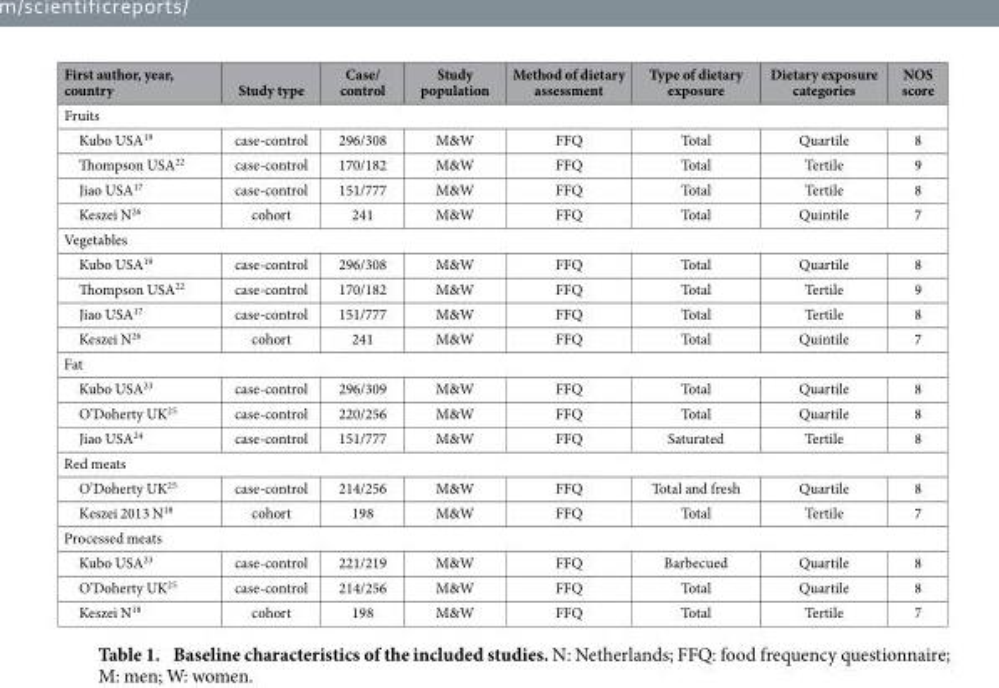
<table><thead><tr><td>First author, year, country</td><td>Study type</td><td>Case/ control</td><td>Study population</td><td>Method of dietary assessment</td><td>Type of dietary exposure</td><td>Dietary exposure categories</td><td>NOS score</td></tr></thead><tbody><tr><td colspan="8">Fruits</td></tr><tr><td>Kubo USA<sup>19</sup></td><td>case-control</td><td>296/308</td><td>M&amp;W</td><td>FFQ</td><td>Total</td><td>Quartile</td><td>8</td></tr><tr><td>Thompson USA<sup>22</sup></td><td>case-control</td><td>170/182</td><td>M&amp;W</td><td>FFQ</td><td>Total</td><td>Tertile</td><td>9</td></tr><tr><td>Jiao USA<sup>17</sup></td><td>case-control</td><td>151/777</td><td>M&amp;W</td><td>FFQ</td><td>Total</td><td>Tertile</td><td>8</td></tr><tr><td>Keszei N<sup>26</sup></td><td>cohort</td><td>241</td><td>M&amp;W</td><td>FFQ</td><td>Total</td><td>Quintile</td><td>7</td></tr><tr><td colspan="8">Vegetables</td></tr><tr><td>Kubo USA<sup>19</sup></td><td>case-control</td><td>296/308</td><td>M&amp;W</td><td>FFQ</td><td>Total</td><td>Quartile</td><td>8</td></tr><tr><td>Thompson USA<sup>22</sup></td><td>case-control</td><td>170/182</td><td>M&amp;W</td><td>FFQ</td><td>Total</td><td>Tertile</td><td>9</td></tr><tr><td>Jiao USA<sup>17</sup></td><td>case-control</td><td>151/777</td><td>M&amp;W</td><td>FFQ</td><td>Total</td><td>Tertile</td><td>8</td></tr><tr><td>Keszei N<sup>26</sup></td><td>cohort</td><td>241</td><td>M&amp;W</td><td>FFQ</td><td>Total</td><td>Quintile</td><td>7</td></tr><tr><td colspan="8">Fat</td></tr><tr><td>Kubo USA<sup>23</sup></td><td>case-control</td><td>296/309</td><td>M&amp;W</td><td>FFQ</td><td>Total</td><td>Quartile</td><td>8</td></tr><tr><td>O’Doherty UK<sup>25</sup></td><td>case-control</td><td>220/256</td><td>M&amp;W</td><td>FFQ</td><td>Total</td><td>Quartile</td><td>8</td></tr><tr><td>Jiao USA<sup>24</sup></td><td>case-control</td><td>151/777</td><td>M&amp;W</td><td>FFQ</td><td>Saturated</td><td>Tertile</td><td>8</td></tr><tr><td colspan="8">Red meats</td></tr><tr><td>O’Doherty UK<sup>25</sup></td><td>case-control</td><td>214/256</td><td>M&amp;W</td><td>FFQ</td><td>Total and fresh</td><td>Quartile</td><td>8</td></tr><tr><td>Keszei 2013 N<sup>18</sup></td><td>cohort</td><td>198</td><td>M&amp;W</td><td>FFQ</td><td>Total</td><td>Tertile</td><td>7</td></tr><tr><td colspan="8">Processed meats</td></tr><tr><td>Kubo USA<sup>23</sup></td><td>case-control</td><td>221/219</td><td>M&amp;W</td><td>FFQ</td><td>Barbecued</td><td>Quartile</td><td>8</td></tr><tr><td>O’Doherty UK<sup>25</sup></td><td>case-control</td><td>214/256</td><td>M&amp;W</td><td>FFQ</td><td>Total</td><td>Quartile</td><td>8</td></tr><tr><td>Keszei N<sup>18</sup></td><td>cohort</td><td>198</td><td>M&amp;W</td><td>FFQ</td><td>Total</td><td>Tertile</td><td>7</td></tr></tbody></table>